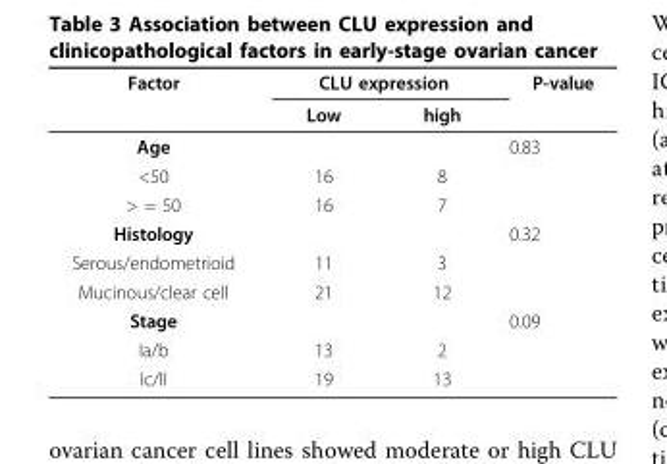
<table><thead><tr><td rowspan="2">Factor</td><td colspan="2">CLU expression</td><td rowspan="2">P-value</td></tr><tr><td>Low</td><td>high</td></tr></thead><tbody><tr><td>Age</td><td></td><td></td><td>0.83</td></tr><tr><td>&lt;50</td><td>16</td><td>8</td><td></td></tr><tr><td>&gt; = 50</td><td>16</td><td>7</td><td></td></tr><tr><td>Histology</td><td></td><td></td><td>0.32</td></tr><tr><td>Serous/endometrioid</td><td>11</td><td>3</td><td></td></tr><tr><td>Mucinous/clear cell</td><td>21</td><td>12</td><td></td></tr><tr><td>Stage</td><td></td><td></td><td>0.09</td></tr><tr><td>Ia/b</td><td>13</td><td>2</td><td></td></tr><tr><td>Ic/II</td><td>19</td><td>13</td><td></td></tr></tbody></table>